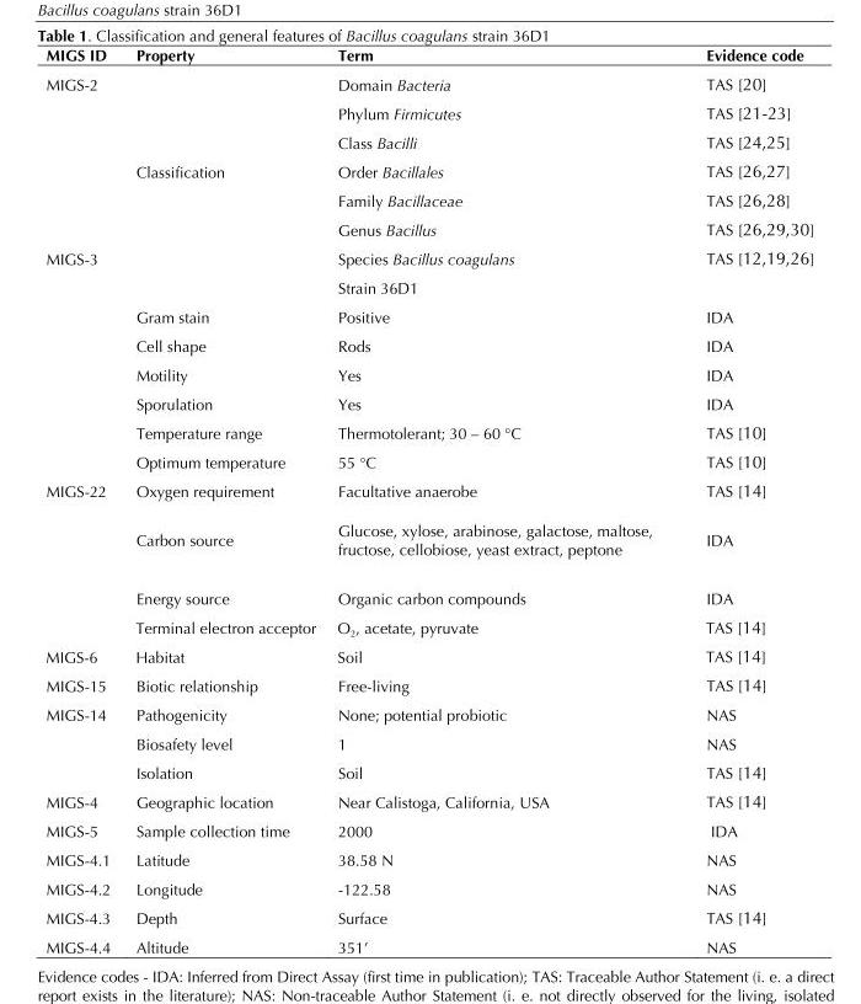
<table><thead><tr><td>MIGS ID</td><td>Property</td><td>Term</td><td>Evidence code</td></tr></thead><tbody><tr><td rowspan="6">MIGS-2</td><td></td><td>Domain Bacteria</td><td>TAS [20]</td></tr><tr><td></td><td>Phylum Firmicutes</td><td>TAS [21-23]</td></tr><tr><td></td><td>Class Bacilli</td><td>TAS [24,25]</td></tr><tr><td>Classification</td><td>Order Bacillales</td><td>TAS [26,27]</td></tr><tr><td></td><td>Family Bacillaceae</td><td>TAS [26,28]</td></tr><tr><td></td><td>Genus Bacillus</td><td>TAS [26,29,30]</td></tr><tr><td rowspan="8">MIGS-3</td><td></td><td>Species Bacillus coagulans</td><td>TAS [12,19,26]</td></tr><tr><td></td><td>Strain 36D1</td><td></td></tr><tr><td>Gram stain</td><td>Positive</td><td>IDA</td></tr><tr><td>Cell shape</td><td>Rods</td><td>IDA</td></tr><tr><td>Motility</td><td>Yes</td><td>IDA</td></tr><tr><td>Sporulation</td><td>Yes</td><td>IDA</td></tr><tr><td>Temperature range</td><td>Thermotolerant; 30 – 60 °C</td><td>TAS [10]</td></tr><tr><td>Optimum temperature</td><td>55 °C</td><td>TAS [10]</td></tr><tr><td rowspan="4">MIGS-22</td><td>Oxygen requirement</td><td>Facultative anaerobe</td><td>TAS [14]</td></tr><tr><td>Carbon source</td><td>Glucose, xylose, arabinose, galactose, maltose, fructose, cellobiose, yeast extract, peptone</td><td>IDA</td></tr><tr><td>Energy source</td><td>Organic carbon compounds</td><td>IDA</td></tr><tr><td>Terminal electron acceptor</td><td>O<sub>2</sub>, acetate, pyruvate</td><td>TAS [14]</td></tr><tr><td>MIGS-6</td><td>Habitat</td><td>Soil</td><td>TAS [14]</td></tr><tr><td>MIGS-15</td><td>Biotic relationship</td><td>Free-living</td><td>TAS [14]</td></tr><tr><td rowspan="3">MIGS-14</td><td>Pathogenicity</td><td>None; potential probiotic</td><td>NAS</td></tr><tr><td>Biosafety level</td><td>1</td><td>NAS</td></tr><tr><td>Isolation</td><td>Soil</td><td>TAS [14]</td></tr><tr><td>MIGS-4</td><td>Geographic location</td><td>Near Calistoga, California, USA</td><td>TAS [14]</td></tr><tr><td>MIGS-5</td><td>Sample collection time</td><td>2000</td><td>IDA</td></tr><tr><td>MIGS-4.1</td><td>Latitude</td><td>38.58 N</td><td>NAS</td></tr><tr><td>MIGS-4.2</td><td>Longitude</td><td>-122.58</td><td>NAS</td></tr><tr><td>MIGS-4.3</td><td>Depth</td><td>Surface</td><td>TAS [14]</td></tr><tr><td>MIGS-4.4</td><td>Altitude</td><td>351’</td><td>NAS</td></tr></tbody></table>